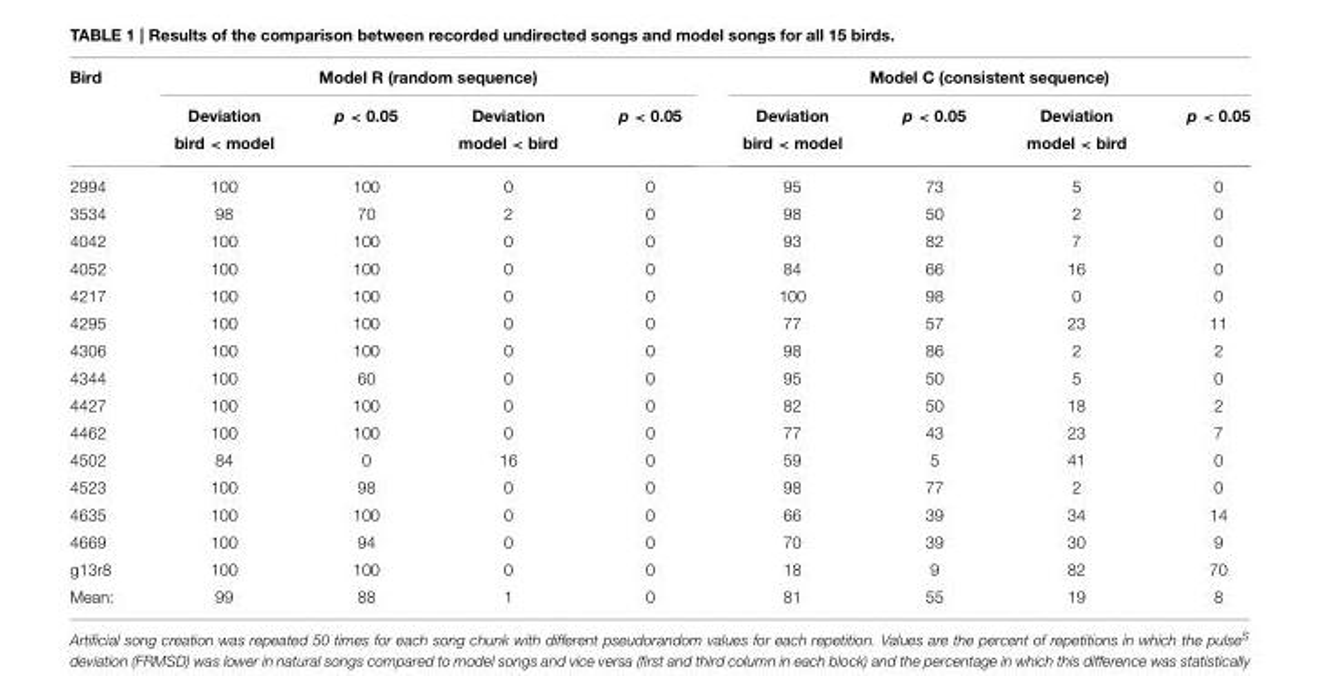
<table><thead><tr><td rowspan="3">Bird</td><td colspan="4">Model R (random sequence)</td><td colspan="4">Model C (consistent sequence)</td></tr><tr><td rowspan="2">Deviation bird &lt; model</td><td rowspan="2">p &lt; 0.05</td><td rowspan="2">Deviation model &lt; bird</td><td rowspan="2">p &lt; 0.05</td><td rowspan="2">Deviation bird &lt; model</td><td rowspan="2">p &lt; 0.05</td><td rowspan="2">Deviation model &lt; bird</td><td rowspan="2">p &lt; 0.05</td></tr><tr></tr></thead><tbody><tr><td>2994</td><td>100</td><td>100</td><td>0</td><td>0</td><td>95</td><td>73</td><td>5</td><td>0</td></tr><tr><td>3534</td><td>98</td><td>70</td><td>2</td><td>0</td><td>98</td><td>50</td><td>2</td><td>0</td></tr><tr><td>4042</td><td>100</td><td>100</td><td>0</td><td>0</td><td>93</td><td>82</td><td>7</td><td>0</td></tr><tr><td>4052</td><td>100</td><td>100</td><td>0</td><td>0</td><td>84</td><td>66</td><td>16</td><td>0</td></tr><tr><td>4217</td><td>100</td><td>100</td><td>0</td><td>0</td><td>100</td><td>98</td><td>0</td><td>0</td></tr><tr><td>4295</td><td>100</td><td>100</td><td>0</td><td>0</td><td>77</td><td>57</td><td>23</td><td>11</td></tr><tr><td>4306</td><td>100</td><td>100</td><td>0</td><td>0</td><td>98</td><td>86</td><td>2</td><td>2</td></tr><tr><td>4344</td><td>100</td><td>60</td><td>0</td><td>0</td><td>95</td><td>50</td><td>5</td><td>0</td></tr><tr><td>4427</td><td>100</td><td>100</td><td>0</td><td>0</td><td>82</td><td>50</td><td>18</td><td>2</td></tr><tr><td>4462</td><td>100</td><td>100</td><td>0</td><td>0</td><td>77</td><td>43</td><td>23</td><td>7</td></tr><tr><td>4502</td><td>84</td><td>0</td><td>16</td><td>0</td><td>59</td><td>5</td><td>41</td><td>0</td></tr><tr><td>4523</td><td>100</td><td>98</td><td>0</td><td>0</td><td>98</td><td>77</td><td>2</td><td>0</td></tr><tr><td>4635</td><td>100</td><td>100</td><td>0</td><td>0</td><td>66</td><td>39</td><td>34</td><td>14</td></tr><tr><td>4669</td><td>100</td><td>94</td><td>0</td><td>0</td><td>70</td><td>39</td><td>30</td><td>9</td></tr><tr><td>g13r8</td><td>100</td><td>100</td><td>0</td><td>0</td><td>18</td><td>9</td><td>82</td><td>70</td></tr><tr><td>Mean:</td><td>99</td><td>88</td><td>1</td><td>0</td><td>81</td><td>55</td><td>19</td><td>8</td></tr></tbody></table>